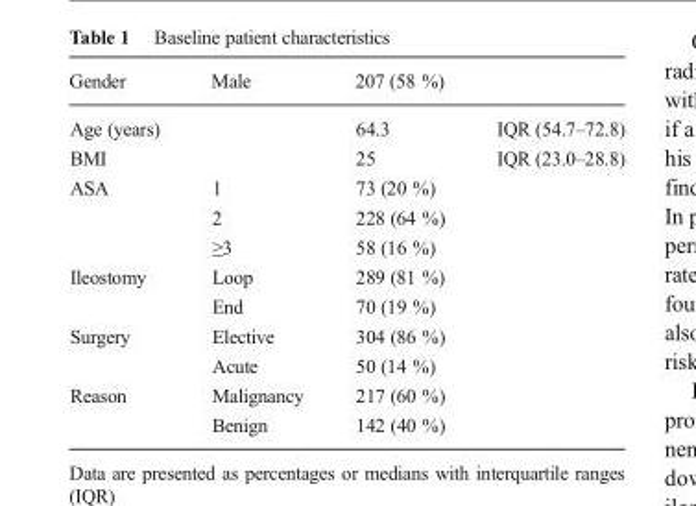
<table><thead><tr><td>Gender</td><td>Male</td><td>207 (58 %)</td><td></td></tr></thead><tbody><tr><td>Age (years)</td><td></td><td>64.3</td><td>IQR (54.7–72.8)</td></tr><tr><td>BMI</td><td></td><td>25</td><td>IQR (23.0–28.8)</td></tr><tr><td rowspan="3">ASA</td><td>1</td><td>73 (20 %)</td><td></td></tr><tr><td>2</td><td>228 (64 %)</td><td></td></tr><tr><td>≥3</td><td>58 (16 %)</td><td></td></tr><tr><td rowspan="2">Ileostomy</td><td>Loop</td><td>289 (81 %)</td><td></td></tr><tr><td>End</td><td>70 (19 %)</td><td></td></tr><tr><td rowspan="2">Surgery</td><td>Elective</td><td>304 (86 %)</td><td></td></tr><tr><td>Acute</td><td>50 (14 %)</td><td></td></tr><tr><td rowspan="2">Reason</td><td>Malignancy</td><td>217 (60 %)</td><td></td></tr><tr><td>Benign</td><td>142 (40 %)</td><td></td></tr></tbody></table>